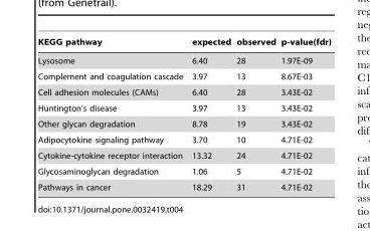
<table><thead><tr><td>KEGG pathway</td><td>expected</td><td>observed</td><td>p-value(fdr)</td></tr></thead><tbody><tr><td>Lysosome</td><td>6.40</td><td>28</td><td>1.97E-09</td></tr><tr><td>Complement and coagulation cascade</td><td>3.97</td><td>13</td><td>8.67E-03</td></tr><tr><td>Cell adhesion molecules (CAMs)</td><td>6.40</td><td>28</td><td>3.43E-02</td></tr><tr><td>Huntington’s disease</td><td>3.97</td><td>13</td><td>3.43E-02</td></tr><tr><td>Other glycan degradation</td><td>8.78</td><td>19</td><td>3.43E-02</td></tr><tr><td>Adipocytokine signaling pathway</td><td>3.70</td><td>10</td><td>4.71E-02</td></tr><tr><td>Cytokine-cytokine receptor interaction</td><td>13.32</td><td>24</td><td>4.71E-02</td></tr><tr><td>Glycosaminoglycan degradation</td><td>1.06</td><td>5</td><td>4.71E-02</td></tr><tr><td>Pathways in cancer</td><td>18.29</td><td>31</td><td>4.71E-02</td></tr></tbody></table>